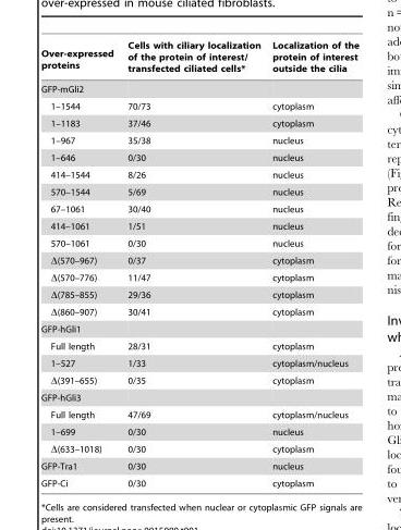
<table><thead><tr><td>Over-expressed proteins</td><td>Cells with ciliary localization of the protein of interest/ transfected ciliated cells*</td><td>Localization of the protein of interest outside the cilia</td></tr></thead><tbody><tr><td colspan="3">GFP-mGli2</td></tr><tr><td>1–1544</td><td>70/73</td><td>cytoplasm</td></tr><tr><td>1–1183</td><td>37/46</td><td>cytoplasm</td></tr><tr><td>1–967</td><td>35/38</td><td>nucleus</td></tr><tr><td>1–646</td><td>0/30</td><td>nucleus</td></tr><tr><td>414–1544</td><td>8/26</td><td>nucleus</td></tr><tr><td>570–1544</td><td>5/69</td><td>nucleus</td></tr><tr><td>67–1061</td><td>30/40</td><td>nucleus</td></tr><tr><td>414–1061</td><td>1/51</td><td>nucleus</td></tr><tr><td>570–1061</td><td>0/30</td><td>nucleus</td></tr><tr><td>Δ(570–967)</td><td>0/37</td><td>cytoplasm</td></tr><tr><td>Δ(570–776)</td><td>11/47</td><td>cytoplasm</td></tr><tr><td>Δ(785–855)</td><td>29/36</td><td>cytoplasm</td></tr><tr><td>Δ(860–907)</td><td>30/41</td><td>cytoplasm</td></tr><tr><td colspan="3">GFP-hGli1</td></tr><tr><td>Full length</td><td>28/31</td><td>cytoplasm</td></tr><tr><td>1–527</td><td>1/33</td><td>cytoplasm/nucleus</td></tr><tr><td>Δ(391–655)</td><td>0/35</td><td>cytoplasm</td></tr><tr><td colspan="3">GFP-hGli3</td></tr><tr><td>Full length</td><td>47/69</td><td>cytoplasm/nucleus</td></tr><tr><td>1–699</td><td>0/30</td><td>nucleus</td></tr><tr><td>Δ(633–1018)</td><td>0/30</td><td>cytoplasm</td></tr><tr><td>GFP-Tra1</td><td>0/30</td><td>nucleus</td></tr><tr><td>GFP-Ci</td><td>0/30</td><td>cytoplasm</td></tr></tbody></table>